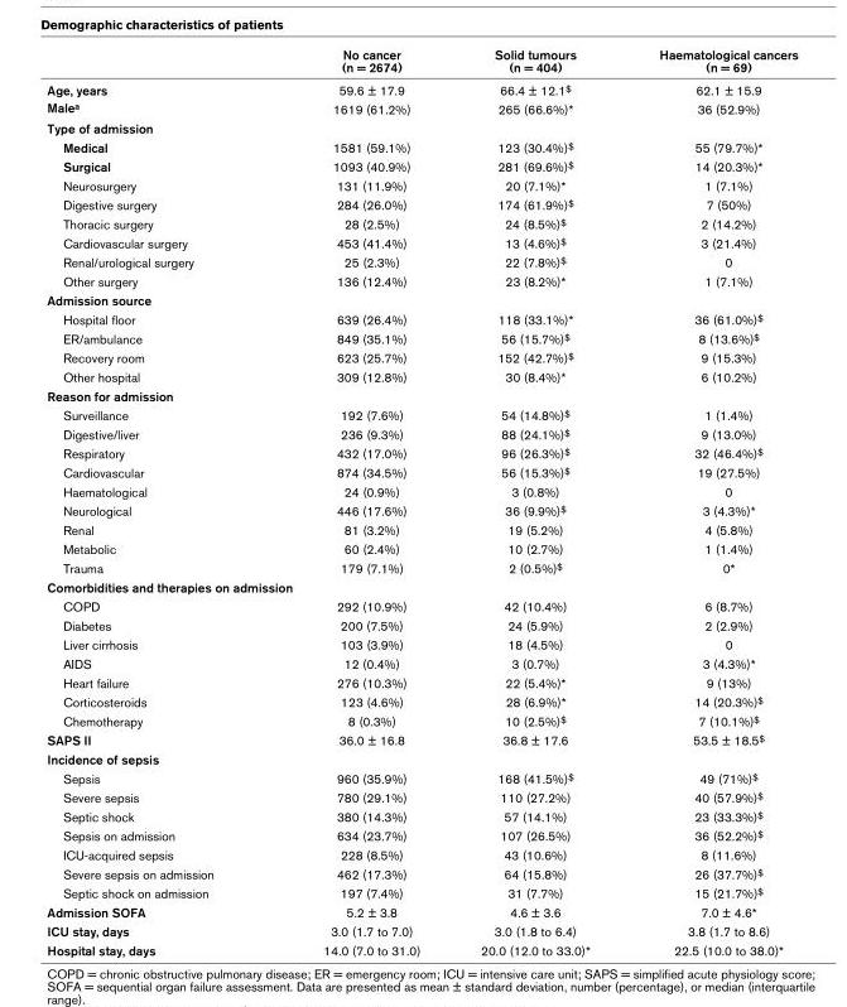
<table><thead><tr><td></td><td>No cancer (n = 2674)</td><td>Solid tumours (n = 404)</td><td>Haematological cancers (n = 69)</td></tr></thead><tbody><tr><td>Age, years</td><td>59.6 ± 17.9</td><td>66.4 ± 12.1<sup>$</sup></td><td>62.1 ± 15.9</td></tr><tr><td>Male<sup>a</sup></td><td>1619 (61.2%)</td><td>265 (66.6%)*</td><td>36 (52.9%)</td></tr><tr><td colspan="4">Type of admission</td></tr><tr><td>Medical</td><td>1581 (59.1%)</td><td>123 (30.4%)<sup>$</sup></td><td>55 (79.7%)*</td></tr><tr><td>Surgical</td><td>1093 (40.9%)</td><td>281 (69.6%)<sup>$</sup></td><td>14 (20.3%)*</td></tr><tr><td>Neurosurgery</td><td>131 (11.9%)</td><td>20 (7.1%)*</td><td>1 (7.1%)</td></tr><tr><td>Digestive surgery</td><td>284 (26.0%)</td><td>174 (61.9%)<sup>$</sup></td><td>7 (50%)</td></tr><tr><td>Thoracic surgery</td><td>28 (2.5%)</td><td>24 (8.5%)<sup>$</sup></td><td>2 (14.2%)</td></tr><tr><td>Cardiovascular surgery</td><td>453 (41.4%)</td><td>13 (4.6%)<sup>$</sup></td><td>3 (21.4%)</td></tr><tr><td>Renal/urological surgery</td><td>25 (2.3%)</td><td>22 (7.8%)<sup>$</sup></td><td>0</td></tr><tr><td>Other surgery</td><td>136 (12.4%)</td><td>23 (8.2%)*</td><td>1 (7.1%)</td></tr><tr><td colspan="4">Admission source</td></tr><tr><td>Hospital floor</td><td>639 (26.4%)</td><td>118 (33.1%)*</td><td>36 (61.0%)<sup>$</sup></td></tr><tr><td>ER/ambulance</td><td>849 (35.1%)</td><td>56 (15.7%)<sup>$</sup></td><td>8 (13.6%)<sup>$</sup></td></tr><tr><td>Recovery room</td><td>623 (25.7%)</td><td>152 (42.7%)<sup>$</sup></td><td>9 (15.3%)</td></tr><tr><td>Other hospital</td><td>309 (12.8%)</td><td>30 (8.4%)*</td><td>6 (10.2%)</td></tr><tr><td colspan="4">Reason for admission</td></tr><tr><td>Surveillance</td><td>192 (7.6%)</td><td>54 (14.8%)<sup>$</sup></td><td>1 (1.4%)</td></tr><tr><td>Digestive/liver</td><td>236 (9.3%)</td><td>88 (24.1%)<sup>$</sup></td><td>9 (13.0%)</td></tr><tr><td>Respiratory</td><td>432 (17.0%)</td><td>96 (26.3%)<sup>$</sup></td><td>32 (46.4%)<sup>$</sup></td></tr><tr><td>Cardiovascular</td><td>874 (34.5%)</td><td>56 (15.3%)<sup>$</sup></td><td>19 (27.5%)</td></tr><tr><td>Haematological</td><td>24 (0.9%)</td><td>3 (0.8%)</td><td>0</td></tr><tr><td>Neurological</td><td>446 (17.6%)</td><td>36 (9.9%)<sup>$</sup></td><td>3 (4.3%)*</td></tr><tr><td>Renal</td><td>81 (3.2%)</td><td>19 (5.2%)</td><td>4 (5.8%)</td></tr><tr><td>Metabolic</td><td>60 (2.4%)</td><td>10 (2.7%)</td><td>1 (1.4%)</td></tr><tr><td>Trauma</td><td>179 (7.1%)</td><td>2 (0.5%)<sup>$</sup></td><td>0*</td></tr><tr><td colspan="4">Comorbidities and therapies on admission</td></tr><tr><td>COPD</td><td>292 (10.9%)</td><td>42 (10.4%)</td><td>6 (8.7%)</td></tr><tr><td>Diabetes</td><td>200 (7.5%)</td><td>24 (5.9%)</td><td>2 (2.9%)</td></tr><tr><td>Liver cirrhosis</td><td>103 (3.9%)</td><td>18 (4.5%)</td><td>0</td></tr><tr><td>AIDS</td><td>12 (0.4%)</td><td>3 (0.7%)</td><td>3 (4.3%)*</td></tr><tr><td>Heart failure</td><td>276 (10.3%)</td><td>22 (5.4%)*</td><td>9 (13%)</td></tr><tr><td>Corticosteroids</td><td>123 (4.6%)</td><td>28 (6.9%)*</td><td>14 (20.3%)<sup>$</sup></td></tr><tr><td>Chemotherapy</td><td>8 (0.3%)</td><td>10 (2.5%)<sup>$</sup></td><td>7 (10.1%)<sup>$</sup></td></tr><tr><td>SAPS II</td><td>36.0 ± 16.8</td><td>36.8 ± 17.6</td><td>53.5 ± 18.5<sup>$</sup></td></tr><tr><td colspan="4">Incidence of sepsis</td></tr><tr><td>Sepsis</td><td>960 (35.9%)</td><td>168 (41.5%)<sup>$</sup></td><td>49 (71%)<sup>$</sup></td></tr><tr><td>Severe sepsis</td><td>780 (29.1%)</td><td>110 (27.2%)</td><td>40 (57.9%)<sup>$</sup></td></tr><tr><td>Septic shock</td><td>380 (14.3%)</td><td>57 (14.1%)</td><td>23 (33.3%)<sup>$</sup></td></tr><tr><td>Sepsis on admission</td><td>634 (23.7%)</td><td>107 (26.5%)</td><td>36 (52.2%)<sup>$</sup></td></tr><tr><td>ICU-acquired sepsis</td><td>228 (8.5%)</td><td>43 (10.6%)</td><td>8 (11.6%)</td></tr><tr><td>Severe sepsis on admission</td><td>462 (17.3%)</td><td>64 (15.8%)</td><td>26 (37.7%)<sup>$</sup></td></tr><tr><td>Septic shock on admission</td><td>197 (7.4%)</td><td>31 (7.7%)</td><td>15 (21.7%)<sup>$</sup></td></tr><tr><td>Admission SOFA</td><td>5.2 ± 3.8</td><td>4.6 ± 3.6</td><td>7.0 ± 4.6*</td></tr><tr><td>ICU stay, days</td><td>3.0 (1.7 to 7.0)</td><td>3.0 (1.8 to 6.4)</td><td>3.8 (1.7 to 8.6)</td></tr><tr><td>Hospital stay, days</td><td>14.0 (7.0 to 31.0)</td><td>20.0 (12.0 to 33.0)*</td><td>22.5 (10.0 to 38.0)*</td></tr></tbody></table>